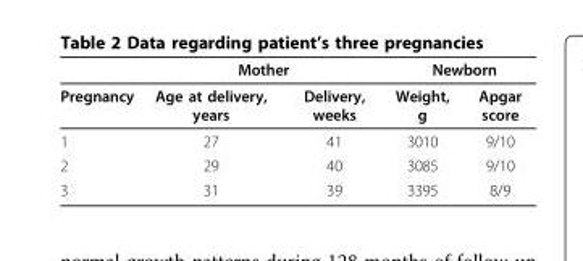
<table><thead><tr><td rowspan="2">Pregnancy</td><td colspan="2">Mother</td><td colspan="2">Newborn</td></tr><tr><td>Age at delivery, years</td><td>Delivery, weeks</td><td>Weight, g</td><td>Apgar score</td></tr></thead><tbody><tr><td>1</td><td>27</td><td>41</td><td>3010</td><td>9/10</td></tr><tr><td>2</td><td>29</td><td>40</td><td>3085</td><td>9/10</td></tr><tr><td>3</td><td>31</td><td>39</td><td>3395</td><td>8/9</td></tr></tbody></table>